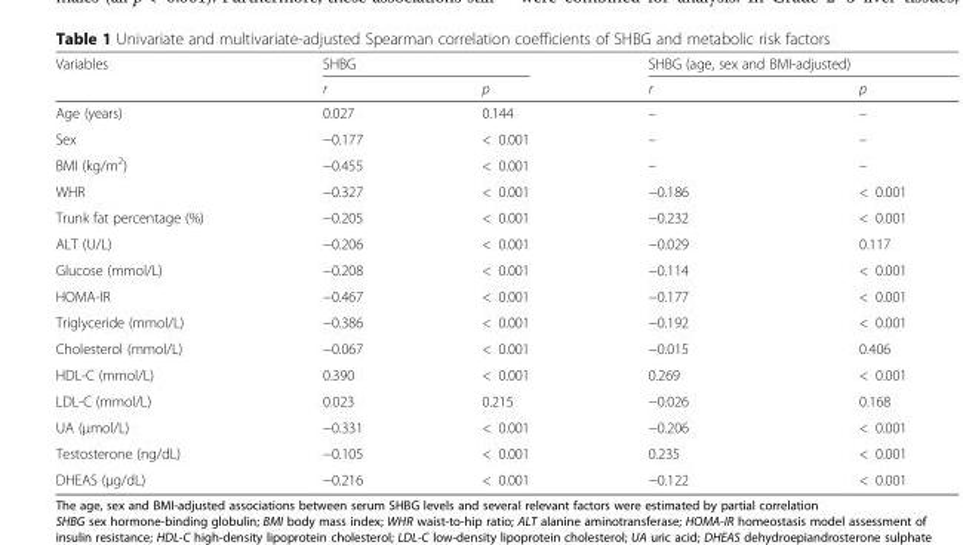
<table><thead><tr><td rowspan="2">Variables</td><td colspan="2">SHBG</td><td colspan="2">SHBG (age, sex and BMI-adjusted)</td></tr><tr><td>r</td><td>p</td><td>r</td><td>p</td></tr></thead><tbody><tr><td>Age (years)</td><td>0.027</td><td>0.144</td><td>–</td><td>–</td></tr><tr><td>Sex</td><td>−0.177</td><td>&lt; 0.001</td><td>–</td><td>–</td></tr><tr><td>BMI (kg/m<sup>2</sup>)</td><td>−0.455</td><td>&lt; 0.001</td><td>–</td><td>–</td></tr><tr><td>WHR</td><td>−0.327</td><td>&lt; 0.001</td><td>−0.186</td><td>&lt; 0.001</td></tr><tr><td>Trunk fat percentage (%)</td><td>−0.205</td><td>&lt; 0.001</td><td>−0.232</td><td>&lt; 0.001</td></tr><tr><td>ALT (U/L)</td><td>−0.206</td><td>&lt; 0.001</td><td>−0.029</td><td>0.117</td></tr><tr><td>Glucose (mmol/L)</td><td>−0.208</td><td>&lt; 0.001</td><td>−0.114</td><td>&lt; 0.001</td></tr><tr><td>HOMA-IR</td><td>−0.467</td><td>&lt; 0.001</td><td>−0.177</td><td>&lt; 0.001</td></tr><tr><td>Triglyceride (mmol/L)</td><td>−0.386</td><td>&lt; 0.001</td><td>−0.192</td><td>&lt; 0.001</td></tr><tr><td>Cholesterol (mmol/L)</td><td>−0.067</td><td>&lt; 0.001</td><td>−0.015</td><td>0.406</td></tr><tr><td>HDL-C (mmol/L)</td><td>0.390</td><td>&lt; 0.001</td><td>0.269</td><td>&lt; 0.001</td></tr><tr><td>LDL-C (mmol/L)</td><td>0.023</td><td>0.215</td><td>−0.026</td><td>0.168</td></tr><tr><td>UA (μmol/L)</td><td>−0.331</td><td>&lt; 0.001</td><td>−0.206</td><td>&lt; 0.001</td></tr><tr><td>Testosterone (ng/dL)</td><td>−0.105</td><td>&lt; 0.001</td><td>0.235</td><td>&lt; 0.001</td></tr><tr><td>DHEAS (μg/dL)</td><td>−0.216</td><td>&lt; 0.001</td><td>−0.122</td><td>&lt; 0.001</td></tr></tbody></table>